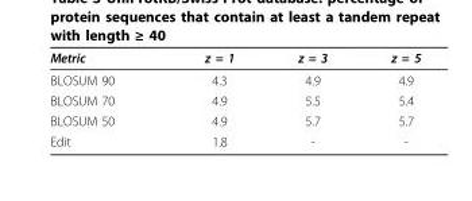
<table><thead><tr><td>Metric</td><td>z = 1</td><td>z = 3</td><td>z = 5</td></tr></thead><tbody><tr><td>BLOSUM 90</td><td>4.3</td><td>4.9</td><td>4.9</td></tr><tr><td>BLOSUM 70</td><td>4.9</td><td>5.5</td><td>5.4</td></tr><tr><td>BLOSUM 50</td><td>4.9</td><td>5.7</td><td>5.7</td></tr><tr><td>Edit</td><td>1.8</td><td>-</td><td>-</td></tr></tbody></table>